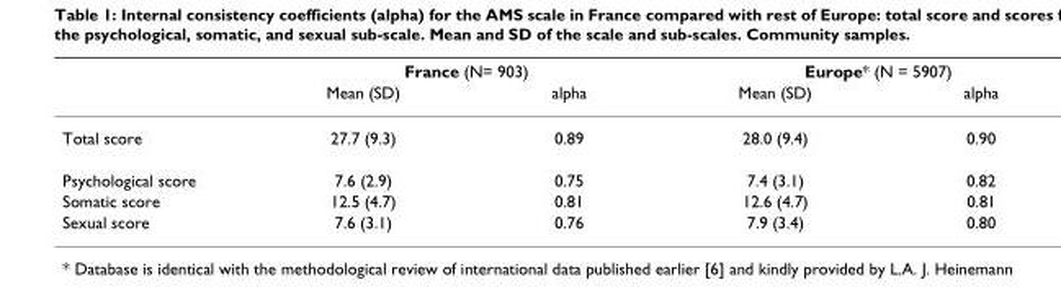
<table><thead><tr><td rowspan="2"></td><td colspan="2">France (N= 903)</td><td colspan="2">Europe* (N = 5907)</td></tr><tr><td>Mean (SD)</td><td>alpha</td><td>Mean (SD)</td><td>alpha</td></tr></thead><tbody><tr><td>Total score</td><td>27.7 (9.3)</td><td>0.89</td><td>28.0 (9.4)</td><td>0.90</td></tr><tr><td>Psychological score</td><td>7.6 (2.9)</td><td>0.75</td><td>7.4 (3.1)</td><td>0.82</td></tr><tr><td>Somatic score</td><td>12.5 (4.7)</td><td>0.81</td><td>12.6 (4.7)</td><td>0.81</td></tr><tr><td>Sexual score</td><td>7.6 (3.1)</td><td>0.76</td><td>7.9 (3.4)</td><td>0.80</td></tr></tbody></table>